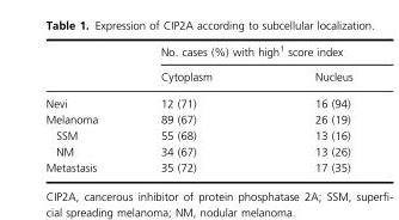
<table><thead><tr><td rowspan="2"></td><td colspan="2">No. cases (%) with high<sup>1</sup> score index</td></tr><tr><td>Cytoplasm</td><td>Nucleus</td></tr></thead><tbody><tr><td>Nevi</td><td>12 (71)</td><td>16 (94)</td></tr><tr><td>Melanoma</td><td>89 (67)</td><td>26 (19)</td></tr><tr><td>SSM</td><td>55 (68)</td><td>13 (16)</td></tr><tr><td>NM</td><td>34 (67)</td><td>13 (26)</td></tr><tr><td>Metastasis</td><td>35 (72)</td><td>17 (35)</td></tr></tbody></table>